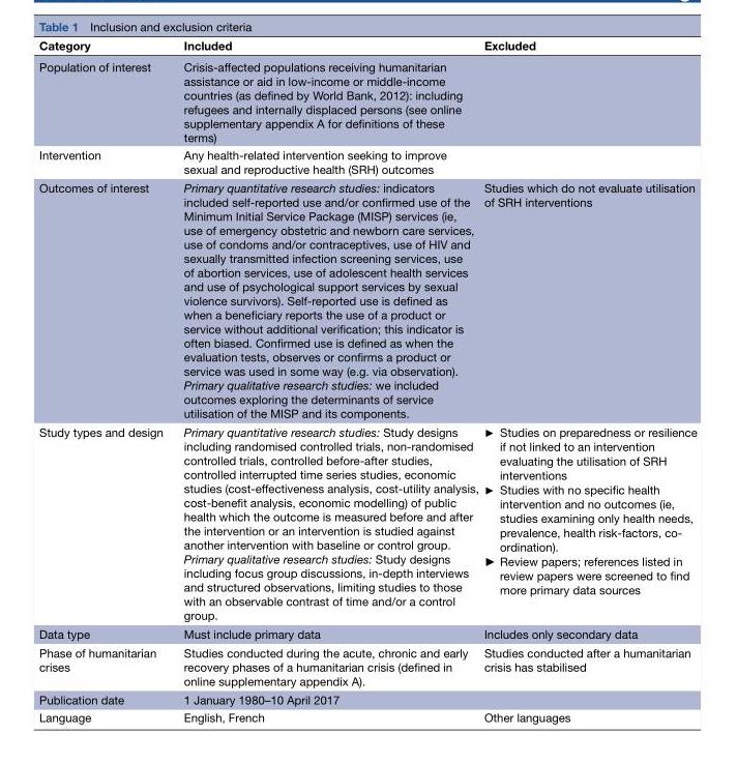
<table><thead><tr><td>Category</td><td>Included</td><td>Excluded</td></tr></thead><tbody><tr><td>Population of interest</td><td>Crisis-affected populations receiving humanitarian assistance or aid in low-income or middle-income countries (as defined by World Bank, 2012): including refugees and internally displaced persons (see online supplementary appendix A for definitions of these terms)</td><td></td></tr><tr><td>Intervention</td><td>Any health-related intervention seeking to improve sexual and reproductive health (SRH) outcomes</td><td></td></tr><tr><td>Outcomes of interest</td><td>Primary quantitative research studies: indicators included self-reported use and/or confirmed use of the Minimum Initial Service Package (MISP) services (ie, use of emergency obstetric and newborn care services, use of condoms and/or contraceptives, use of HIV and sexually transmitted infection screening services, use of abortion services, use of adolescent health services and use of psychological support services by sexual violence survivors). Self-reported use is defined as when a beneficiary reports the use of a product or service without additional verification; this indicator is often biased. Confirmed use is defined as when the evaluation tests, observes or confirms a product or service was used in some way (e.g. via observation). Primary qualitative research studies: we included outcomes exploring the determinants of service utilisation of the MISP and its components.</td><td>Studies which do not evaluate utilisation of SRH interventions</td></tr><tr><td>Study types and design</td><td>Primary quantitative research studies: Study designs including randomised controlled trials, non-randomised controlled trials, controlled before-after studies, controlled interrupted time series studies, economic studies (cost-effectiveness analysis, cost-utility analysis, cost-benefit analysis, economic modelling) of public health which the outcome is measured before and after the intervention or an intervention is studied against another intervention with baseline or control group. Primary qualitative research studies: Study designs including focus group discussions, in-depth interviews and structured observations, limiting studies to those with an observable contrast of time and/or a control group.</td><td>► Studies on preparedness or resilience if not linked to an intervention evaluating the utilisation of SRH interventions ► Studies with no specific health intervention and no outcomes (ie, studies examining only health needs, prevalence, health risk-factors, co- ordination). ► Review papers; references listed in review papers were screened to find more primary data sources</td></tr><tr><td>Data type</td><td>Must include primary data</td><td>Includes only secondary data</td></tr><tr><td>Phase of humanitarian crises</td><td>Studies conducted during the acute, chronic and early recovery phases of a humanitarian crisis (defined in online supplementary appendix A).</td><td>Studies conducted after a humanitarian crisis has stabilised</td></tr><tr><td>Publication date</td><td>1 January 1980–10 April 2017</td><td></td></tr><tr><td>Language</td><td>English, French</td><td>Other languages</td></tr></tbody></table>